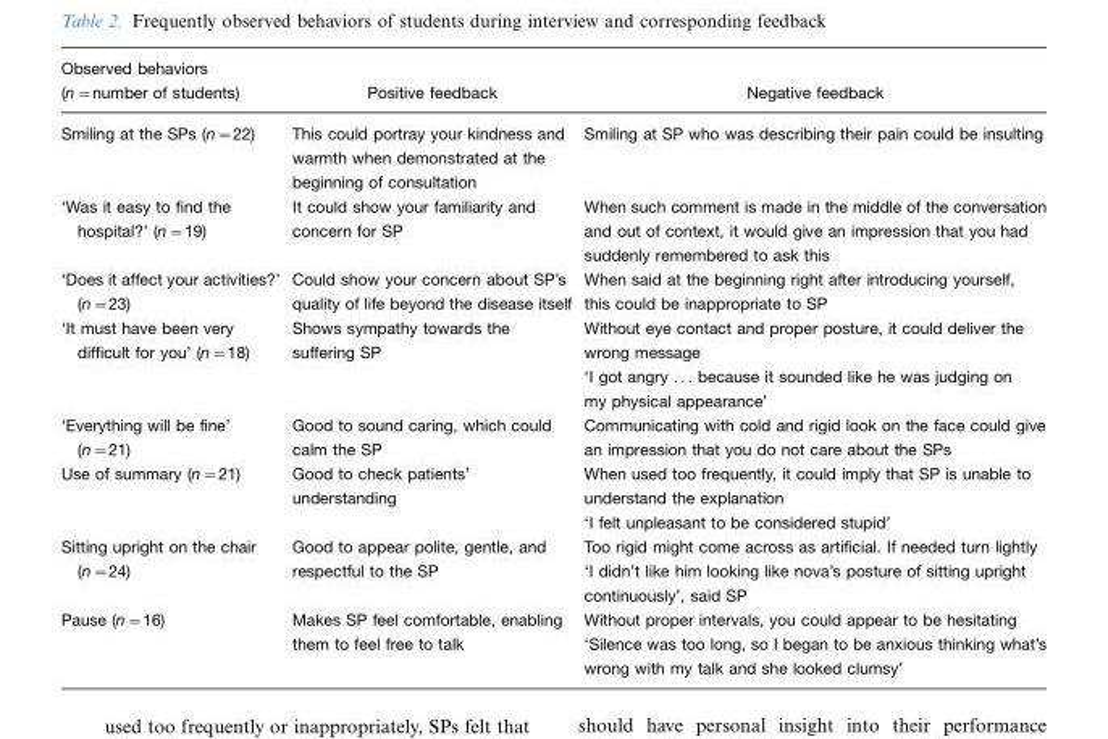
<table><thead><tr><td>Observed behaviors (n=number of students)</td><td>Positive feedback</td><td>Negative feedback</td></tr></thead><tbody><tr><td>Smiling at the SPs (n=22)</td><td>This could portray your kindness and warmth when demonstrated at the beginning of consultation</td><td>Smiling at SP who was describing their pain could be insulting</td></tr><tr><td>‘Was it easy to find the hospital?’ (n=19)</td><td>It could show your familiarity and concern for SP</td><td>When such comment is made in the middle of the conversation and out of context, it would give an impression that you had suddenly remembered to ask this</td></tr><tr><td>‘Does it affect your activities?’ (n=23)</td><td>Could show your concern about SP’s quality of life beyond the disease itself</td><td>When said at the beginning right after introducing yourself, this could be inappropriate to SP</td></tr><tr><td>‘It must have been very difficult for you’ (n=18)</td><td>Shows sympathy towards the suffering SP</td><td>Without eye contact and proper posture, it could deliver the wrong message ‘I got angry . . . because it sounded like he was judging on my physical appearance’</td></tr><tr><td>‘Everything will be fine’ (n=21)</td><td>Good to sound caring, which could calm the SP</td><td>Communicating with cold and rigid look on the face could give an impression that you do not care about the SPs</td></tr><tr><td>Use of summary (n=21)</td><td>Good to check patients’ understanding</td><td>When used too frequently, it could imply that SP is unable to understand the explanation ‘I felt unpleasant to be considered stupid’</td></tr><tr><td>Sitting upright on the chair (n=24)</td><td>Good to appear polite, gentle, and respectful to the SP</td><td>Too rigid might come across as artificial. If needed turn lightly ‘I didn’t like him looking like nova’s posture of sitting upright continuously’, said SP</td></tr><tr><td>Pause (n=16)</td><td>Makes SP feel comfortable, enabling them to feel free to talk</td><td>Without proper intervals, you could appear to be hesitating ‘Silence was too long, so I began to be anxious thinking what’s wrong with my talk and she looked clumsy’</td></tr></tbody></table>